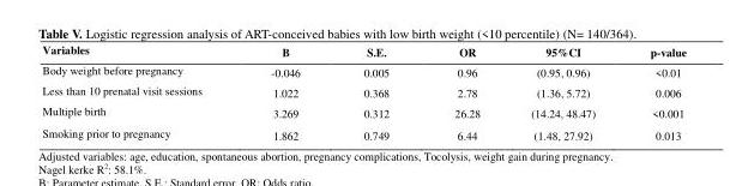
<table><thead><tr><td>Variables</td><td>B</td><td>S.E.</td><td>OR</td><td>95%CI</td><td>p-value</td></tr></thead><tbody><tr><td>Body weight before pregnancy</td><td>-0.046</td><td>0.005</td><td>0.96</td><td>(0.95, 0.96)</td><td>&lt;0.01</td></tr><tr><td>Less than 10 prenatal visit sessions</td><td>1.022</td><td>0.368</td><td>2.78</td><td>(1.36, 5.72)</td><td>0.006</td></tr><tr><td>Multiple birth</td><td>3.269</td><td>0.312</td><td>26.28</td><td>(14.24, 48.47)</td><td>&lt;0.001</td></tr><tr><td>Smoking prior to pregnancy</td><td>1.862</td><td>0.749</td><td>6.44</td><td>(1.48, 27.92)</td><td>0.013</td></tr></tbody></table>